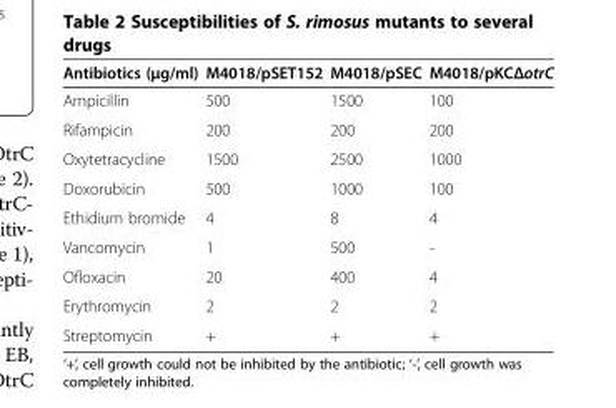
<table><thead><tr><td>Antibiotics (μg/ml)</td><td>M4018/pSET152</td><td>M4018/pSEC</td><td>M4018/pKCΔotrC</td></tr></thead><tbody><tr><td>Ampicillin</td><td>500</td><td>1500</td><td>100</td></tr><tr><td>Rifampicin</td><td>200</td><td>200</td><td>200</td></tr><tr><td>Oxytetracycline</td><td>1500</td><td>2500</td><td>1000</td></tr><tr><td>Doxorubicin</td><td>500</td><td>1000</td><td>100</td></tr><tr><td>Ethidium bromide</td><td>4</td><td>8</td><td>4</td></tr><tr><td>Vancomycin</td><td>1</td><td>500</td><td>-</td></tr><tr><td>Ofloxacin</td><td>20</td><td>400</td><td>4</td></tr><tr><td>Erythromycin</td><td>2</td><td>2</td><td>2</td></tr><tr><td>Streptomycin</td><td>+</td><td>+</td><td>+</td></tr></tbody></table>